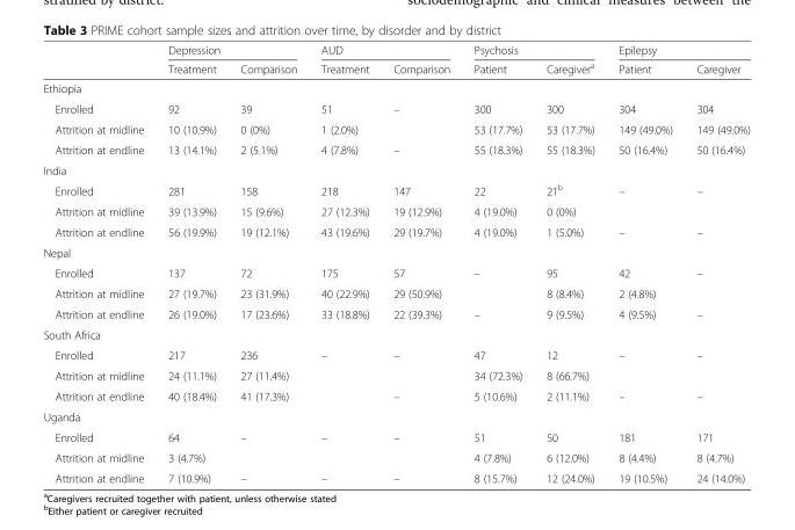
<table><thead><tr><td rowspan="2"></td><td colspan="2">Depression</td><td colspan="2">AUD</td><td colspan="2">Psychosis</td><td colspan="2">Epilepsy</td></tr><tr><td>Treatment</td><td>Comparison</td><td>Treatment</td><td>Comparison</td><td>Patient</td><td>Caregiver<sup>a</sup></td><td>Patient</td><td>Caregiver</td></tr></thead><tbody><tr><td colspan="9">Ethiopia</td></tr><tr><td>Enrolled</td><td>92</td><td>39</td><td>51</td><td>–</td><td>300</td><td>300</td><td>304</td><td>304</td></tr><tr><td>Attrition at midline</td><td>10 (10.9%)</td><td>0 (0%)</td><td>1 (2.0%)</td><td></td><td>53 (17.7%)</td><td>53 (17.7%)</td><td>149 (49.0%)</td><td>149 (49.0%)</td></tr><tr><td>Attrition at endline</td><td>13 (14.1%)</td><td>2 (5.1%)</td><td>4 (7.8%)</td><td>–</td><td>55 (18.3%)</td><td>55 (18.3%)</td><td>50 (16.4%)</td><td>50 (16.4%)</td></tr><tr><td colspan="9">India</td></tr><tr><td>Enrolled</td><td>281</td><td>158</td><td>218</td><td>147</td><td>22</td><td>21<sup>b</sup></td><td>–</td><td>–</td></tr><tr><td>Attrition at midline</td><td>39 (13.9%)</td><td>15 (9.6%)</td><td>27 (12.3%)</td><td>19 (12.9%)</td><td>4 (19.0%)</td><td>0 (0%)</td><td></td><td></td></tr><tr><td>Attrition at endline</td><td>56 (19.9%)</td><td>19 (12.1%)</td><td>43 (19.6%)</td><td>29 (19.7%)</td><td>4 (19.0%)</td><td>1 (5.0%)</td><td>–</td><td>–</td></tr><tr><td colspan="9">Nepal</td></tr><tr><td>Enrolled</td><td>137</td><td>72</td><td>175</td><td>57</td><td>–</td><td>95</td><td>42</td><td>–</td></tr><tr><td>Attrition at midline</td><td>27 (19.7%)</td><td>23 (31.9%)</td><td>40 (22.9%)</td><td>29 (50.9%)</td><td></td><td>8 (8.4%)</td><td>2 (4.8%)</td><td></td></tr><tr><td>Attrition at endline</td><td>26 (19.0%)</td><td>17 (23.6%)</td><td>33 (18.8%)</td><td>22 (39.3%)</td><td>–</td><td>9 (9.5%)</td><td>4 (9.5%)</td><td>–</td></tr><tr><td colspan="9">South Africa</td></tr><tr><td>Enrolled</td><td>217</td><td>236</td><td>–</td><td>–</td><td>47</td><td>12</td><td>–</td><td>–</td></tr><tr><td>Attrition at midline</td><td>24 (11.1%)</td><td>27 (11.4%)</td><td></td><td></td><td>34 (72.3%)</td><td>8 (66.7%)</td><td></td><td></td></tr><tr><td>Attrition at endline</td><td>40 (18.4%)</td><td>41 (17.3%)</td><td></td><td>–</td><td>5 (10.6%)</td><td>2 (11.1%)</td><td>–</td><td>–</td></tr><tr><td colspan="9">Uganda</td></tr><tr><td>Enrolled</td><td>64</td><td>–</td><td>–</td><td>–</td><td>51</td><td>50</td><td>181</td><td>171</td></tr><tr><td>Attrition at midline</td><td>3 (4.7%)</td><td></td><td></td><td></td><td>4 (7.8%)</td><td>6 (12.0%)</td><td>8 (4.4%)</td><td>8 (4.7%)</td></tr><tr><td>Attrition at endline</td><td>7 (10.9%)</td><td>–</td><td>–</td><td>–</td><td>8 (15.7%)</td><td>12 (24.0%)</td><td>19 (10.5%)</td><td>24 (14.0%)</td></tr></tbody></table>